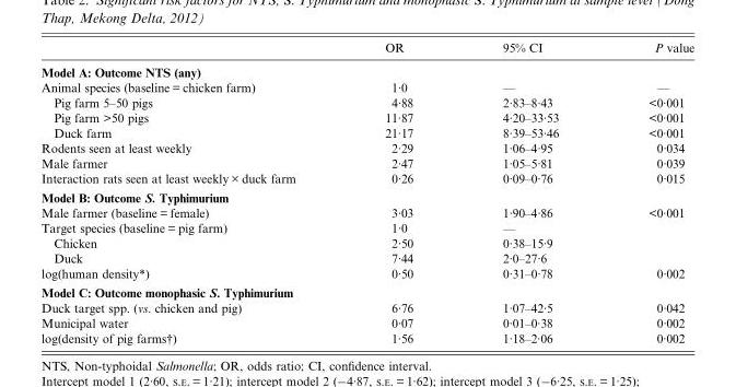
<table><thead><tr><td></td><td>OR</td><td>95% CI</td><td>P value</td></tr></thead><tbody><tr><td colspan="4">Model A: Outcome NTS (any)</td></tr><tr><td>Animal species (baseline = chicken farm)</td><td>1·0</td><td>—</td><td>—</td></tr><tr><td>Pig farm 5–50 pigs</td><td>4·88</td><td>2·83–8·43</td><td>&lt;0·001</td></tr><tr><td>Pig farm &gt;50 pigs</td><td>11·87</td><td>4·20–33·53</td><td>&lt;0·001</td></tr><tr><td>Duck farm</td><td>21·17</td><td>8·39–53·46</td><td>&lt;0·001</td></tr><tr><td>Rodents seen at least weekly</td><td>2·29</td><td>1·06–4·95</td><td>0·034</td></tr><tr><td>Male farmer</td><td>2·47</td><td>1·05–5·81</td><td>0·039</td></tr><tr><td>Interaction rats seen at least weekly × duck farm</td><td>0·26</td><td>0·09–0·76</td><td>0·015</td></tr><tr><td colspan="4">Model B: Outcome S. Typhimurium</td></tr><tr><td>Male farmer (baseline = female)</td><td>3·03</td><td>1·90–4·86</td><td>&lt;0·001</td></tr><tr><td>Target species (baseline = pig farm)</td><td>1·0</td><td>—</td><td></td></tr><tr><td>Chicken</td><td>2·50</td><td>0·38–15·9</td><td></td></tr><tr><td>Duck</td><td>7·44</td><td>2·0–27·6</td><td></td></tr><tr><td>log(human density*)</td><td>0·50</td><td>0·31–0·78</td><td>0·002</td></tr><tr><td colspan="4">Model C: Outcome monophasic S. Typhimurium</td></tr><tr><td>Duck target spp. (vs. chicken and pig)</td><td>6·76</td><td>1·07–42·5</td><td>0·042</td></tr><tr><td>Municipal water</td><td>0·07</td><td>0·01–0·38</td><td>0·002</td></tr><tr><td>log(density of pig farms†)</td><td>1·56</td><td>1·18–2·06</td><td>0·002</td></tr></tbody></table>